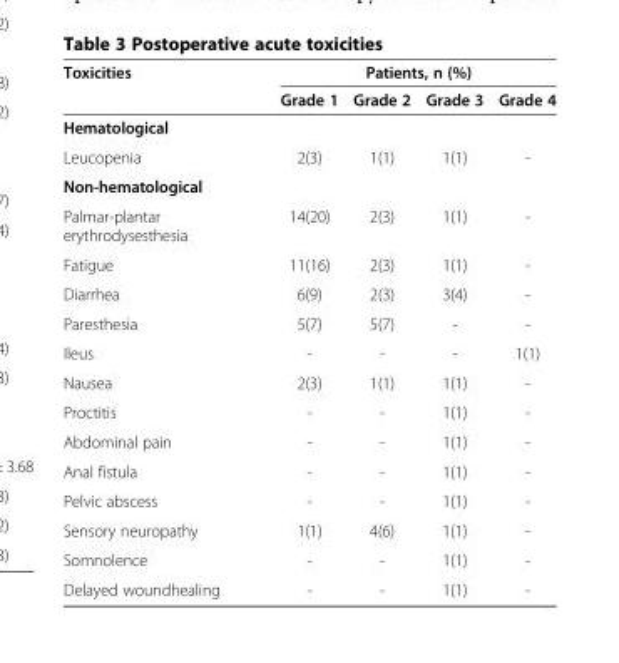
<table><thead><tr><td rowspan="2">Toxicities</td><td colspan="4">Patients, n (%)</td></tr><tr><td>Grade 1</td><td>Grade 2</td><td>Grade 3</td><td>Grade 4</td></tr></thead><tbody><tr><td colspan="5">Hematological</td></tr><tr><td>Leucopenia</td><td>2(3)</td><td>1(1)</td><td>1(1)</td><td>-</td></tr><tr><td colspan="5">Non-hematological</td></tr><tr><td>Palmar-plantar erythrodysesthesia</td><td>14(20)</td><td>2(3)</td><td>1(1)</td><td>-</td></tr><tr><td>Fatigue</td><td>11(16)</td><td>2(3)</td><td>1(1)</td><td>-</td></tr><tr><td>Diarrhea</td><td>6(9)</td><td>2(3)</td><td>3(4)</td><td>-</td></tr><tr><td>Paresthesia</td><td>5(7)</td><td>5(7)</td><td>-</td><td>-</td></tr><tr><td>Ileus</td><td>-</td><td>-</td><td>-</td><td>1(1)</td></tr><tr><td>Nausea</td><td>2(3)</td><td>1(1)</td><td>1(1)</td><td>-</td></tr><tr><td>Proctitis</td><td>-</td><td>-</td><td>1(1)</td><td>-</td></tr><tr><td>Abdominal pain</td><td>-</td><td>-</td><td>1(1)</td><td>-</td></tr><tr><td>Anal fistula</td><td>-</td><td>-</td><td>1(1)</td><td>-</td></tr><tr><td>Pelvic abscess</td><td>-</td><td>-</td><td>1(1)</td><td>-</td></tr><tr><td>Sensory neuropathy</td><td>1(1)</td><td>4(6)</td><td>1(1)</td><td>-</td></tr><tr><td>Somnolence</td><td>-</td><td>-</td><td>1(1)</td><td>-</td></tr><tr><td>Delayed woundhealing</td><td>-</td><td>-</td><td>1(1)</td><td>-</td></tr></tbody></table>